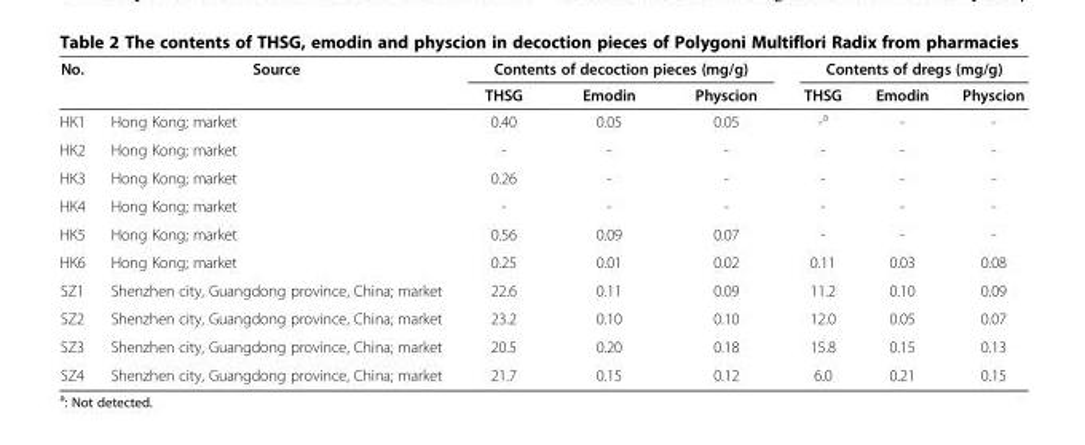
<table><thead><tr><td rowspan="2">No.</td><td rowspan="2">Source</td><td colspan="3">Contents of decoction pieces (mg/g)</td><td colspan="3">Contents of dregs (mg/g)</td></tr><tr><td>THSG</td><td>Emodin</td><td>Physcion</td><td>THSG</td><td>Emodin</td><td>Physcion</td></tr></thead><tbody><tr><td>HK1</td><td>Hong Kong; market</td><td>0.40</td><td>0.05</td><td>0.05</td><td>-<sup>a</sup></td><td>-</td><td>-</td></tr><tr><td>HK2</td><td>Hong Kong; market</td><td>-</td><td>-</td><td>-</td><td>-</td><td>-</td><td>-</td></tr><tr><td>HK3</td><td>Hong Kong; market</td><td>0.26</td><td>-</td><td>-</td><td>-</td><td>-</td><td>-</td></tr><tr><td>HK4</td><td>Hong Kong; market</td><td>-</td><td>-</td><td>-</td><td>-</td><td>-</td><td>-</td></tr><tr><td>HK5</td><td>Hong Kong; market</td><td>0.56</td><td>0.09</td><td>0.07</td><td>-</td><td>-</td><td>-</td></tr><tr><td>HK6</td><td>Hong Kong; market</td><td>0.25</td><td>0.01</td><td>0.02</td><td>0.11</td><td>0.03</td><td>0.08</td></tr><tr><td>SZ1</td><td>Shenzhen city, Guangdong province, China; market</td><td>22.6</td><td>0.11</td><td>0.09</td><td>11.2</td><td>0.10</td><td>0.09</td></tr><tr><td>SZ2</td><td>Shenzhen city, Guangdong province, China; market</td><td>23.2</td><td>0.10</td><td>0.10</td><td>12.0</td><td>0.05</td><td>0.07</td></tr><tr><td>SZ3</td><td>Shenzhen city, Guangdong province, China; market</td><td>20.5</td><td>0.20</td><td>0.18</td><td>15.8</td><td>0.15</td><td>0.13</td></tr><tr><td>SZ4</td><td>Shenzhen city, Guangdong province, China; market</td><td>21.7</td><td>0.15</td><td>0.12</td><td>6.0</td><td>0.21</td><td>0.15</td></tr></tbody></table>